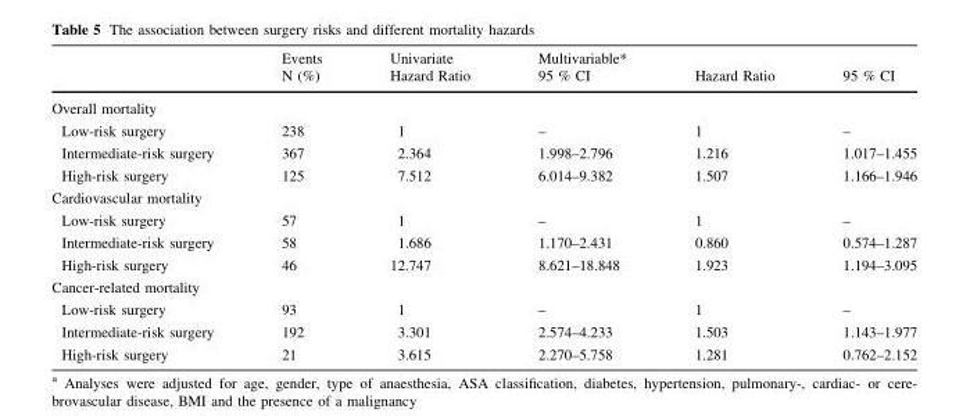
<table><thead><tr><td rowspan="2"></td><td rowspan="2">Events N (%)</td><td rowspan="2">Univariate Hazard Ratio</td><td rowspan="2">Multivariable* 95 % CI</td><td rowspan="2">Hazard Ratio</td><td rowspan="2">95 % CI</td></tr><tr></tr></thead><tbody><tr><td colspan="6">Overall mortality</td></tr><tr><td>Low-risk surgery</td><td>238</td><td>1</td><td>–</td><td>1</td><td>–</td></tr><tr><td>Intermediate-risk surgery</td><td>367</td><td>2.364</td><td>1.998–2.796</td><td>1.216</td><td>1.017–1.455</td></tr><tr><td>High-risk surgery</td><td>125</td><td>7.512</td><td>6.014–9.382</td><td>1.507</td><td>1.166–1.946</td></tr><tr><td colspan="6">Cardiovascular mortality</td></tr><tr><td>Low-risk surgery</td><td>57</td><td>1</td><td>–</td><td>1</td><td>–</td></tr><tr><td>Intermediate-risk surgery</td><td>58</td><td>1.686</td><td>1.170–2.431</td><td>0.860</td><td>0.574–1.287</td></tr><tr><td>High-risk surgery</td><td>46</td><td>12.747</td><td>8.621–18.848</td><td>1.923</td><td>1.194–3.095</td></tr><tr><td colspan="6">Cancer-related mortality</td></tr><tr><td>Low-risk surgery</td><td>93</td><td>1</td><td>–</td><td>1</td><td>–</td></tr><tr><td>Intermediate-risk surgery</td><td>192</td><td>3.301</td><td>2.574–4.233</td><td>1.503</td><td>1.143–1.977</td></tr><tr><td>High-risk surgery</td><td>21</td><td>3.615</td><td>2.270–5.758</td><td>1.281</td><td>0.762–2.152</td></tr></tbody></table>